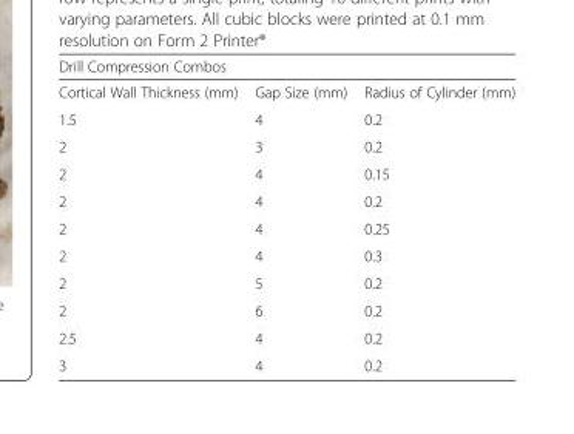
<table><thead><tr><td colspan="3">Drill Compression Combos</td></tr><tr><td>Cortical Wall Thickness (mm)</td><td>Gap Size (mm)</td><td>Radius of Cylinder (mm)</td></tr></thead><tbody><tr><td>1.5</td><td>4</td><td>0.2</td></tr><tr><td>2</td><td>3</td><td>0.2</td></tr><tr><td>2</td><td>4</td><td>0.15</td></tr><tr><td>2</td><td>4</td><td>0.2</td></tr><tr><td>2</td><td>4</td><td>0.25</td></tr><tr><td>2</td><td>4</td><td>0.3</td></tr><tr><td>2</td><td>5</td><td>0.2</td></tr><tr><td>2</td><td>6</td><td>0.2</td></tr><tr><td>2.5</td><td>4</td><td>0.2</td></tr><tr><td>3</td><td>4</td><td>0.2</td></tr></tbody></table>